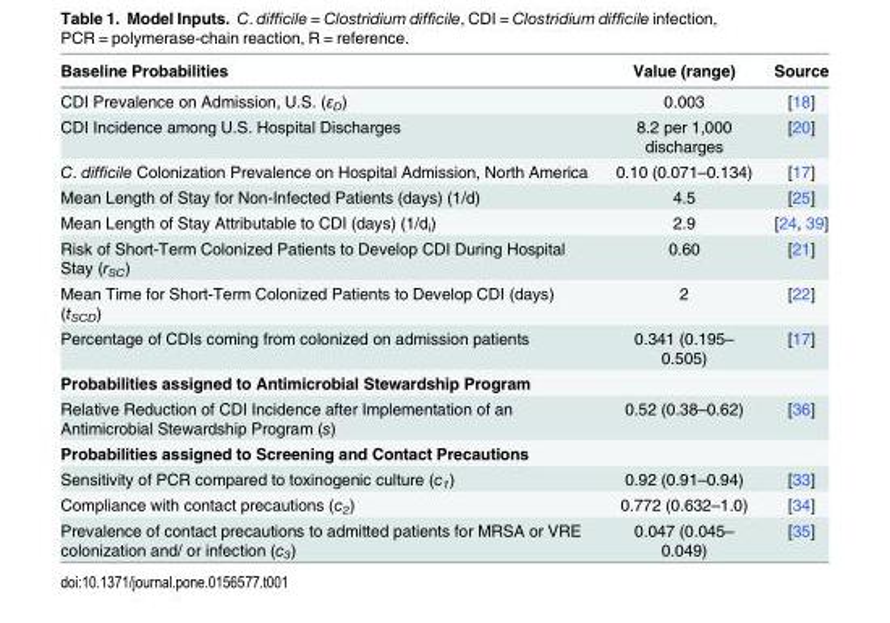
<table><thead><tr><td>Baseline Probabilities</td><td>Value (range)</td><td>Source</td></tr></thead><tbody><tr><td>CDI Prevalence on Admission, U.S. (ε<sub>D</sub>)</td><td>0.003</td><td>[18]</td></tr><tr><td>CDI Incidence among U.S. Hospital Discharges</td><td>8.2 per 1,000 discharges</td><td>[20]</td></tr><tr><td>C. difficile Colonization Prevalence on Hospital Admission, North America</td><td>0.10 (0.071–0.134)</td><td>[17]</td></tr><tr><td>Mean Length of Stay for Non-Infected Patients (days) (1/d)</td><td>4.5</td><td>[25]</td></tr><tr><td>Mean Length of Stay Attributable to CDI (days) (1/d<sub>i</sub>)</td><td>2.9</td><td>[24, 39]</td></tr><tr><td>Risk of Short-Term Colonized Patients to Develop CDI During Hospital Stay (r<sub>SC</sub>)</td><td>0.60</td><td>[21]</td></tr><tr><td>Mean Time for Short-Term Colonized Patients to Develop CDI (days) (t<sub>SCD</sub>)</td><td>2</td><td>[22]</td></tr><tr><td>Percentage of CDIs coming from colonized on admission patients</td><td>0.341 (0.195– 0.505)</td><td>[17]</td></tr><tr><td colspan="3">Probabilities assigned to Antimicrobial Stewardship Program</td></tr><tr><td>Relative Reduction of CDI Incidence after Implementation of an Antimicrobial Stewardship Program (s)</td><td>0.52 (0.38–0.62)</td><td>[36]</td></tr><tr><td colspan="3">Probabilities assigned to Screening and Contact Precautions</td></tr><tr><td>Sensitivity of PCR compared to toxinogenic culture (c<sub>1</sub>)</td><td>0.92 (0.91–0.94)</td><td>[33]</td></tr><tr><td>Compliance with contact precautions (c<sub>2</sub>)</td><td>0.772 (0.632–1.0)</td><td>[34]</td></tr><tr><td>Prevalence of contact precautions to admitted patients for MRSA or VRE colonization and/ or infection (c<sub>3</sub>)</td><td>0.047 (0.045– 0.049)</td><td>[35]</td></tr></tbody></table>